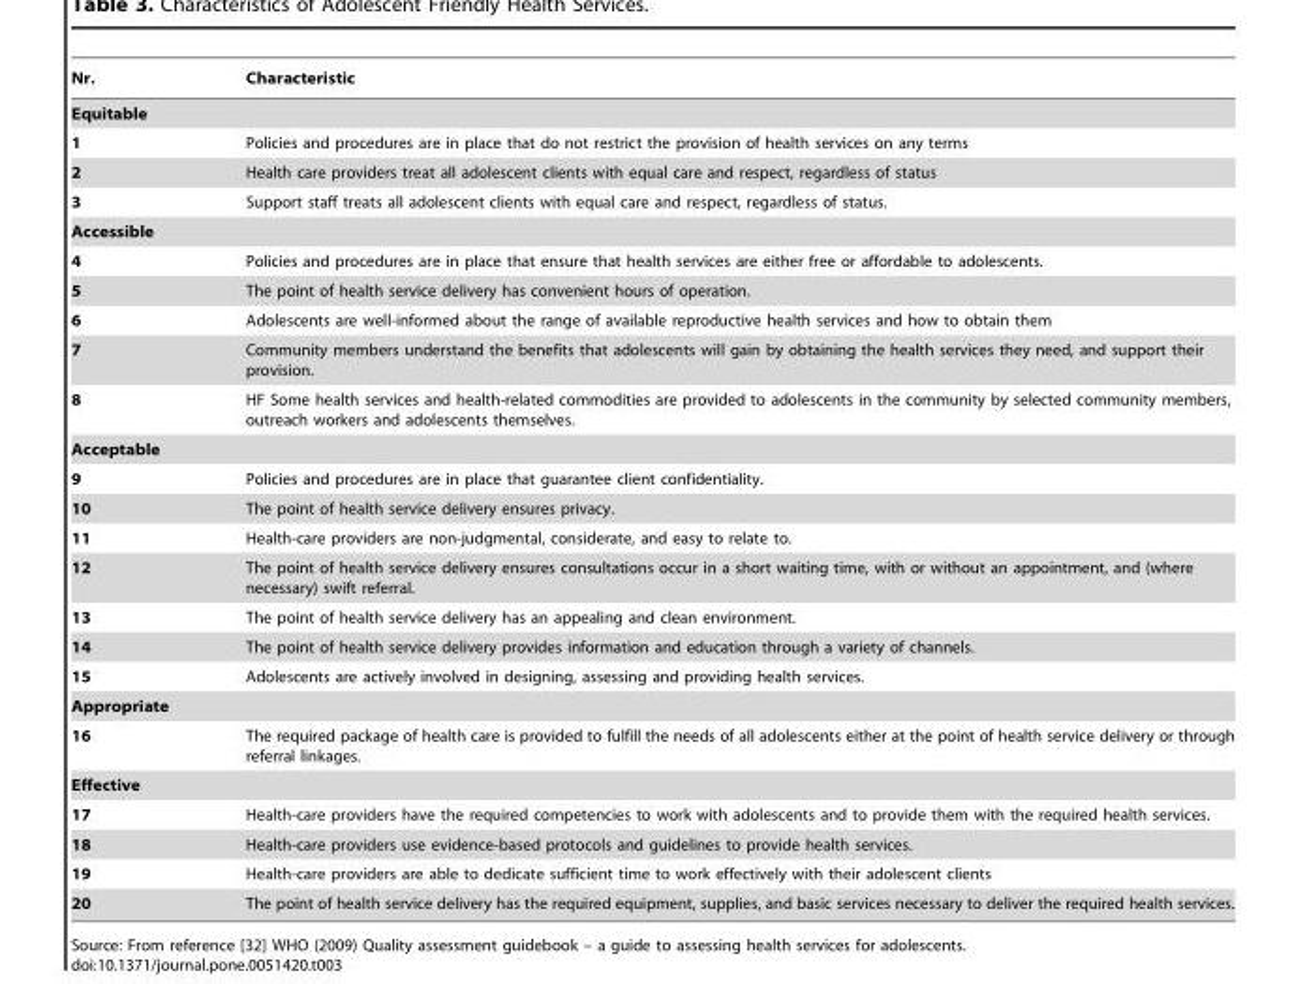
<table><thead><tr><td>Nr.</td><td>Characteristic</td></tr></thead><tbody><tr><td colspan="2">Equitable</td></tr><tr><td>1</td><td>Policies and procedures are in place that do not restrict the provision of health services on any terms</td></tr><tr><td>2</td><td>Health care providers treat all adolescent clients with equal care and respect, regardless of status</td></tr><tr><td>3</td><td>Support staff treats all adolescent clients with equal care and respect, regardless of status.</td></tr><tr><td colspan="2">Accessible</td></tr><tr><td>4</td><td>Policies and procedures are in place that ensure that health services are either free or affordable to adolescents.</td></tr><tr><td>5</td><td>The point of health service delivery has convenient hours of operation.</td></tr><tr><td>6</td><td>Adolescents are well-informed about the range of available reproductive health services and how to obtain them</td></tr><tr><td>7</td><td>Community members understand the benefits that adolescents will gain by obtaining the health services they need, and support their provision.</td></tr><tr><td>8</td><td>HF Some health services and health-related commodities are provided to adolescents in the community by selected community members, outreach workers and adolescents themselves.</td></tr><tr><td colspan="2">Acceptable</td></tr><tr><td>9</td><td>Policies and procedures are in place that guarantee client confidentiality.</td></tr><tr><td>10</td><td>The point of health service delivery ensures privacy.</td></tr><tr><td>11</td><td>Health-care providers are non-judgmental, considerate, and easy to relate to.</td></tr><tr><td>12</td><td>The point of health service delivery ensures consultations occur in a short waiting time, with or without an appointment, and (where necessary) swift referral.</td></tr><tr><td>13</td><td>The point of health service delivery has an appealing and clean environment.</td></tr><tr><td>14</td><td>The point of health service delivery provides information and education through a variety of channels.</td></tr><tr><td>15</td><td>Adolescents are actively involved in designing, assessing and providing health services.</td></tr><tr><td colspan="2">Appropriate</td></tr><tr><td>16</td><td>The required package of health care is provided to fulfill the needs of all adolescents either at the point of health service delivery or through referral linkages.</td></tr><tr><td colspan="2">Effective</td></tr><tr><td>17</td><td>Health-care providers have the required competencies to work with adolescents and to provide them with the required health services.</td></tr><tr><td>18</td><td>Health-care providers use evidence-based protocols and guidelines to provide health services.</td></tr><tr><td>19</td><td>Health-care providers are able to dedicate sufficient time to work effectively with their adolescent clients</td></tr><tr><td>20</td><td>The point of health service delivery has the required equipment, supplies, and basic services necessary to deliver the required health services.</td></tr></tbody></table>